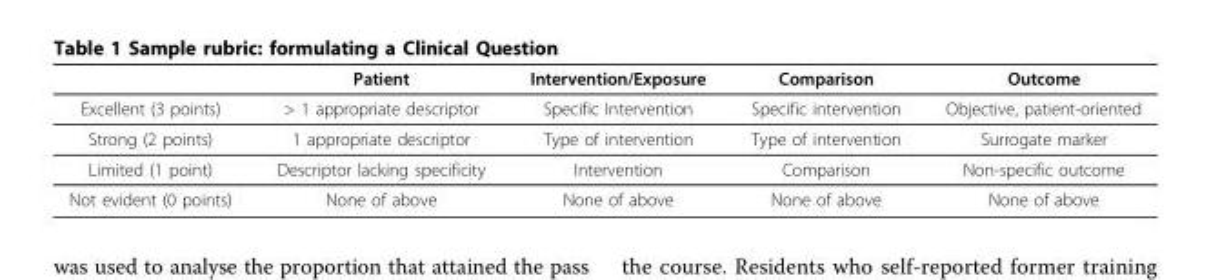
<table><thead><tr><td></td><td>Patient</td><td>Intervention/Exposure</td><td>Comparison</td><td>Outcome</td></tr></thead><tbody><tr><td>Excellent (3 points)</td><td>&gt; 1 appropriate descriptor</td><td>Specific Intervention</td><td>Specific intervention</td><td>Objective, patient-oriented</td></tr><tr><td>Strong (2 points)</td><td>1 appropriate descriptor</td><td>Type of intervention</td><td>Type of intervention</td><td>Surrogate marker</td></tr><tr><td>Limited (1 point)</td><td>Descriptor lacking specificity</td><td>Intervention</td><td>Comparison</td><td>Non-specific outcome</td></tr><tr><td>Not evident (0 points)</td><td>None of above</td><td>None of above</td><td>None of above</td><td>None of above</td></tr></tbody></table>